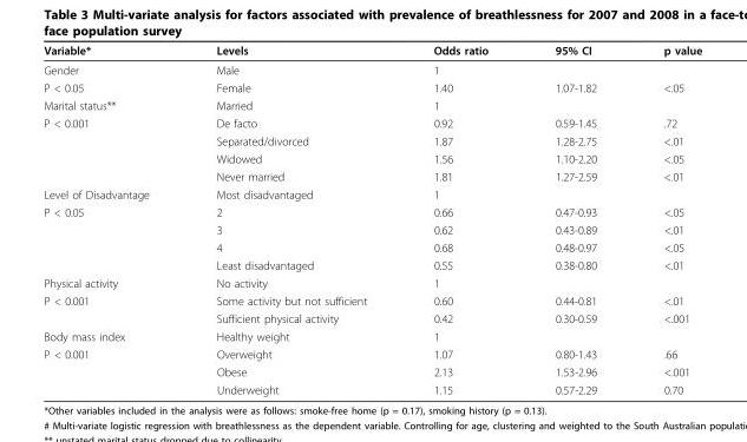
<table><thead><tr><td>Variable*</td><td>Levels</td><td>Odds ratio</td><td>95% CI</td><td>p value</td></tr></thead><tbody><tr><td>Gender</td><td>Male</td><td>1</td><td></td><td></td></tr><tr><td>P &lt; 0.05</td><td>Female</td><td>1.40</td><td>1.07-1.82</td><td>&lt;.05</td></tr><tr><td>Marital status**</td><td>Married</td><td>1</td><td></td><td></td></tr><tr><td rowspan="4">P &lt; 0.001</td><td>De facto</td><td>0.92</td><td>0.59-1.45</td><td>.72</td></tr><tr><td>Separated/divorced</td><td>1.87</td><td>1.28-2.75</td><td>&lt;.01</td></tr><tr><td>Widowed</td><td>1.56</td><td>1.10-2.20</td><td>&lt;.05</td></tr><tr><td>Never married</td><td>1.81</td><td>1.27-2.59</td><td>&lt;.01</td></tr><tr><td>Level of Disadvantage</td><td>Most disadvantaged</td><td>1</td><td></td><td></td></tr><tr><td rowspan="4">P &lt; 0.05</td><td>2</td><td>0.66</td><td>0.47-0.93</td><td>&lt;.05</td></tr><tr><td>3</td><td>0.62</td><td>0.43-0.89</td><td>&lt;.01</td></tr><tr><td>4</td><td>0.68</td><td>0.48-0.97</td><td>&lt;.05</td></tr><tr><td>Least disadvantaged</td><td>0.55</td><td>0.38-0.80</td><td>&lt;.01</td></tr><tr><td>Physical activity</td><td>No activity</td><td>1</td><td></td><td></td></tr><tr><td rowspan="2">P &lt; 0.001</td><td>Some activity but not sufficient</td><td>0.60</td><td>0.44-0.81</td><td>&lt;.01</td></tr><tr><td>Sufficient physical activity</td><td>0.42</td><td>0.30-0.59</td><td>&lt;.001</td></tr><tr><td>Body mass index</td><td>Healthy weight</td><td>1</td><td></td><td></td></tr><tr><td rowspan="3">P &lt; 0.001</td><td>Overweight</td><td>1.07</td><td>0.80-1.43</td><td>.66</td></tr><tr><td>Obese</td><td>2.13</td><td>1.53-2.96</td><td>&lt;.001</td></tr><tr><td>Underweight</td><td>1.15</td><td>0.57-2.29</td><td>0.70</td></tr></tbody></table>